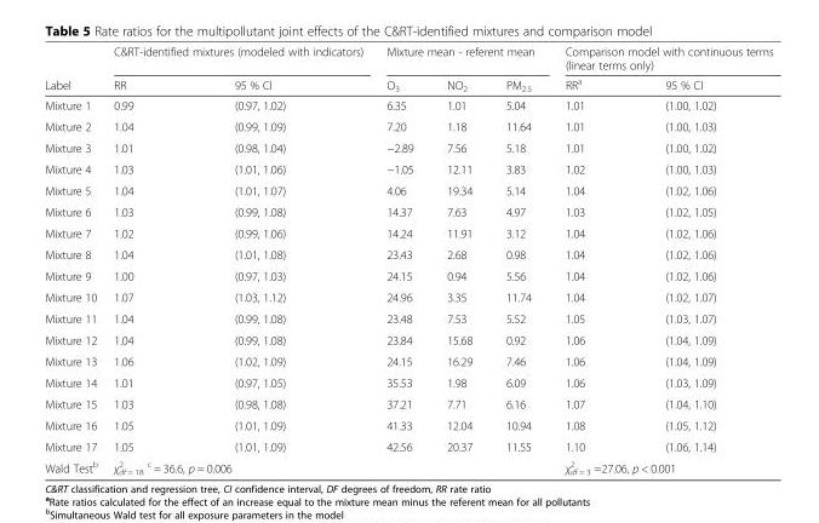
<table><thead><tr><td rowspan="2">Label</td><td colspan="2">C&amp;RT-identified mixtures (modeled with indicators)</td><td colspan="3">Mixture mean - referent mean</td><td colspan="2">Comparison model with continuous terms (linear terms only)</td></tr><tr><td>RR</td><td>95 % CI</td><td>O<sub>3</sub></td><td>NO<sub>2</sub></td><td>PM<sub>2.5</sub></td><td>RR<sup>a</sup></td><td>95 % CI</td></tr></thead><tbody><tr><td>Mixture 1</td><td>0.99</td><td>(0.97, 1.02)</td><td>6.35</td><td>1.01</td><td>5.04</td><td>1.01</td><td>(1.00, 1.02)</td></tr><tr><td>Mixture 2</td><td>1.04</td><td>(0.99, 1.09)</td><td>7.20</td><td>1.18</td><td>11.64</td><td>1.01</td><td>(1.00, 1.03)</td></tr><tr><td>Mixture 3</td><td>1.01</td><td>(0.98, 1.04)</td><td>−2.89</td><td>7.56</td><td>5.18</td><td>1.01</td><td>(1.00, 1.02)</td></tr><tr><td>Mixture 4</td><td>1.03</td><td>(1.01, 1.06)</td><td>−1.05</td><td>12.11</td><td>3.83</td><td>1.02</td><td>(1.00, 1.03)</td></tr><tr><td>Mixture 5</td><td>1.04</td><td>(1.01, 1.07)</td><td>4.06</td><td>19.34</td><td>5.14</td><td>1.04</td><td>(1.02, 1.06)</td></tr><tr><td>Mixture 6</td><td>1.03</td><td>(0.99, 1.08)</td><td>14.37</td><td>7.63</td><td>4.97</td><td>1.03</td><td>(1.02, 1.05)</td></tr><tr><td>Mixture 7</td><td>1.02</td><td>(0.99, 1.06)</td><td>14.24</td><td>11.91</td><td>3.12</td><td>1.04</td><td>(1.02, 1.06)</td></tr><tr><td>Mixture 8</td><td>1.04</td><td>(1.01, 1.08)</td><td>23.43</td><td>2.68</td><td>0.98</td><td>1.04</td><td>(1.02, 1.06)</td></tr><tr><td>Mixture 9</td><td>1.00</td><td>(0.97, 1.03)</td><td>24.15</td><td>0.94</td><td>5.56</td><td>1.04</td><td>(1.02, 1.06)</td></tr><tr><td>Mixture 10</td><td>1.07</td><td>(1.03, 1.12)</td><td>24.96</td><td>3.35</td><td>11.74</td><td>1.04</td><td>(1.02, 1.07)</td></tr><tr><td>Mixture 11</td><td>1.04</td><td>(0.99, 1.08)</td><td>23.48</td><td>7.53</td><td>5.52</td><td>1.05</td><td>(1.03, 1.07)</td></tr><tr><td>Mixture 12</td><td>1.04</td><td>(0.99, 1.08)</td><td>23.84</td><td>15.68</td><td>0.92</td><td>1.06</td><td>(1.04, 1.09)</td></tr><tr><td>Mixture 13</td><td>1.06</td><td>(1.02, 1.09)</td><td>24.15</td><td>16.29</td><td>7.46</td><td>1.06</td><td>(1.04, 1.09)</td></tr><tr><td>Mixture 14</td><td>1.01</td><td>(0.97, 1.05)</td><td>35.53</td><td>1.98</td><td>6.09</td><td>1.06</td><td>(1.03, 1.09)</td></tr><tr><td>Mixture 15</td><td>1.03</td><td>(0.98, 1.08)</td><td>37.21</td><td>7.71</td><td>6.16</td><td>1.07</td><td>(1.04, 1.10)</td></tr><tr><td>Mixture 16</td><td>1.05</td><td>(1.01, 1.09)</td><td>41.33</td><td>12.04</td><td>10.94</td><td>1.08</td><td>(1.05, 1.12)</td></tr><tr><td>Mixture 17</td><td>1.05</td><td>(1.01, 1.09)</td><td>42.56</td><td>20.37</td><td>11.55</td><td>1.10</td><td>(1.06, 1.14)</td></tr><tr><td>Wald Test<sup>b</sup></td><td colspan="2">χ<sub>df = 18</sub> <sup>2 c</sup> = 36.6, p = 0.006</td><td></td><td></td><td></td><td colspan="2">χ<sub>df = 3</sub> <sup>2</sup> =27.06, p &lt; 0.001</td></tr></tbody></table>